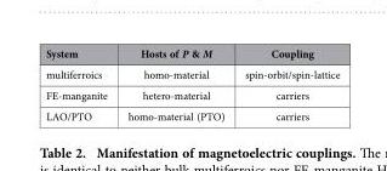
<table><thead><tr><td>System</td><td>Hosts of P &amp; M</td><td>Coupling</td></tr></thead><tbody><tr><td>multiferroics</td><td>homo-material</td><td>spin-orbit/spin-lattice</td></tr><tr><td>FE-manganite</td><td>hetero-material</td><td>carriers</td></tr><tr><td>LAO/PTO</td><td>homo-material (PTO)</td><td>carriers</td></tr></tbody></table>